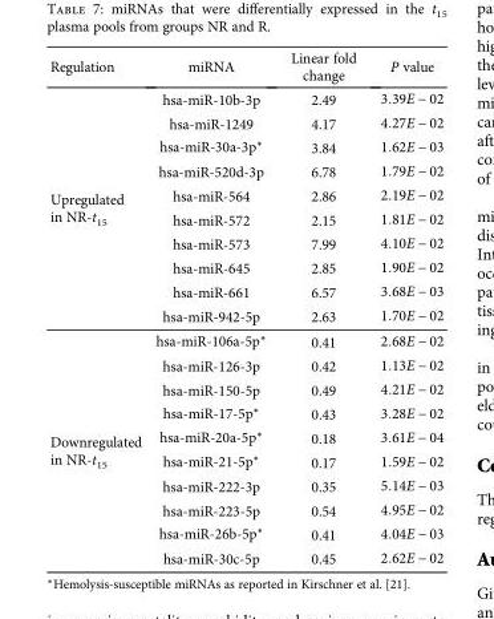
<table><thead><tr><td>Regulation</td><td>miRNA</td><td>Linear fold change</td><td>P value</td></tr></thead><tbody><tr><td rowspan="10">Upregulated in NR-t15</td><td>hsa-miR-10b-3p</td><td>2.49</td><td>3 39E − 02</td></tr><tr><td>hsa-miR-1249</td><td>4.17</td><td>4 27E − 02</td></tr><tr><td>hsa-miR-30a-3p∗</td><td>3.84</td><td>1 62E − 03</td></tr><tr><td>hsa-miR-520d-3p</td><td>6.78</td><td>1 79E − 02</td></tr><tr><td>hsa-miR-564</td><td>2.86</td><td>2 19E − 02</td></tr><tr><td>hsa-miR-572</td><td>2.15</td><td>1 81E − 02</td></tr><tr><td>hsa-miR-573</td><td>7.99</td><td>4 10E − 02</td></tr><tr><td>hsa-miR-645</td><td>2.85</td><td>1 90E − 02</td></tr><tr><td>hsa-miR-661</td><td>6.57</td><td>3 68E − 03</td></tr><tr><td>hsa-miR-942-5p</td><td>2.63</td><td>1 70E − 02</td></tr><tr><td rowspan="10">Downregulated in NR-t15</td><td>hsa-miR-106a-5p∗</td><td>0.41</td><td>2 68E − 02</td></tr><tr><td>hsa-miR-126-3p</td><td>0.42</td><td>1 13E − 02</td></tr><tr><td>hsa-miR-150-5p</td><td>0.49</td><td>4 21E − 02</td></tr><tr><td>hsa-miR-17-5p∗</td><td>0.43</td><td>3 28E − 02</td></tr><tr><td>hsa-miR-20a-5p∗</td><td>0.18</td><td>3 61E − 04</td></tr><tr><td>hsa-miR-21-5p∗</td><td>0.17</td><td>1 59E − 02</td></tr><tr><td>hsa-miR-222-3p</td><td>0.35</td><td>5 14E − 03</td></tr><tr><td>hsa-miR-223-5p</td><td>0.54</td><td>4 95E − 02</td></tr><tr><td>hsa-miR-26b-5p∗</td><td>0.41</td><td>4 04E − 03</td></tr><tr><td>hsa-miR-30c-5p</td><td>0.45</td><td>2 62E − 02</td></tr></tbody></table>